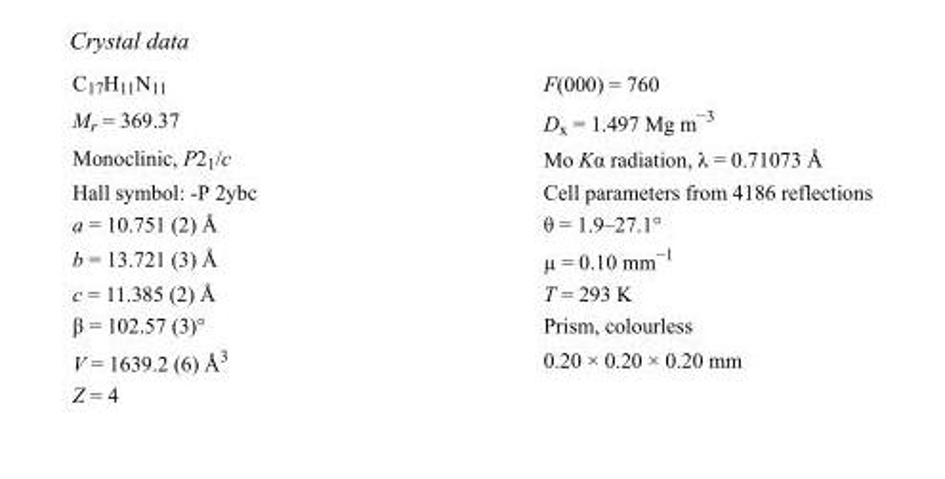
<table><tbody><tr><td>C<sub>17</sub>H<sub>11</sub>N<sub>11</sub></td><td>F(000) = 760</td></tr><tr><td>M<sub>r</sub> = 369.37</td><td>D<sub>x</sub> = 1.497 Mg m<sup>−3</sup></td></tr><tr><td>Monoclinic, P2<sub>1</sub>/c</td><td>Mo Kα radiation, λ = 0.71073 Å</td></tr><tr><td>Hall symbol: -P 2ybc</td><td>Cell parameters from 4186 reflections</td></tr><tr><td>a = 10.751 (2) Å</td><td>θ = 1.9–27.1°</td></tr><tr><td>b = 13.721 (3) Å</td><td>µ = 0.10 mm<sup>−1</sup></td></tr><tr><td>c = 11.385 (2) Å</td><td>T = 293 K</td></tr><tr><td>β = 102.57 (3)°</td><td>Prism, colourless</td></tr><tr><td>V = 1639.2 (6) Å<sup>3</sup></td><td>0.20 × 0.20 × 0.20 mm</td></tr><tr><td>Z = 4</td><td></td></tr></tbody></table>